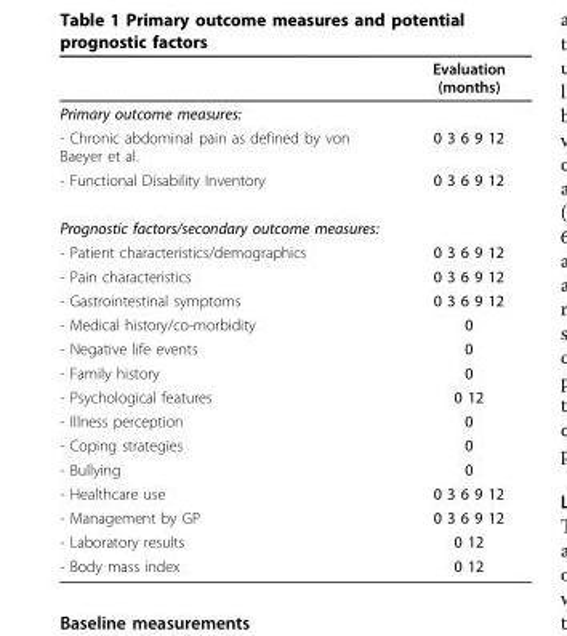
<table><thead><tr><td></td><td>Evaluation (months)</td></tr></thead><tbody><tr><td colspan="2">Primary outcome measures:</td></tr><tr><td>- Chronic abdominal pain as defined by von Baeyer et al.</td><td>0 3 6 9 12</td></tr><tr><td>- Functional Disability Inventory</td><td>0 3 6 9 12</td></tr><tr><td colspan="2">Prognostic factors/secondary outcome measures:</td></tr><tr><td>- Patient characteristics/demographics</td><td>0 3 6 9 12</td></tr><tr><td>- Pain characteristics</td><td>0 3 6 9 12</td></tr><tr><td>- Gastrointestinal symptoms</td><td>0 3 6 9 12</td></tr><tr><td>- Medical history/co-morbidity</td><td>0</td></tr><tr><td>- Negative life events</td><td>0</td></tr><tr><td>- Family history</td><td>0</td></tr><tr><td>- Psychological features</td><td>0 12</td></tr><tr><td>- Illness perception</td><td>0</td></tr><tr><td>- Coping strategies</td><td>0</td></tr><tr><td>- Bullying</td><td>0</td></tr><tr><td>- Healthcare use</td><td>0 3 6 9 12</td></tr><tr><td>- Management by GP</td><td>0 3 6 9 12</td></tr><tr><td>- Laboratory results</td><td>0 12</td></tr><tr><td>- Body mass index</td><td>0 12</td></tr></tbody></table>